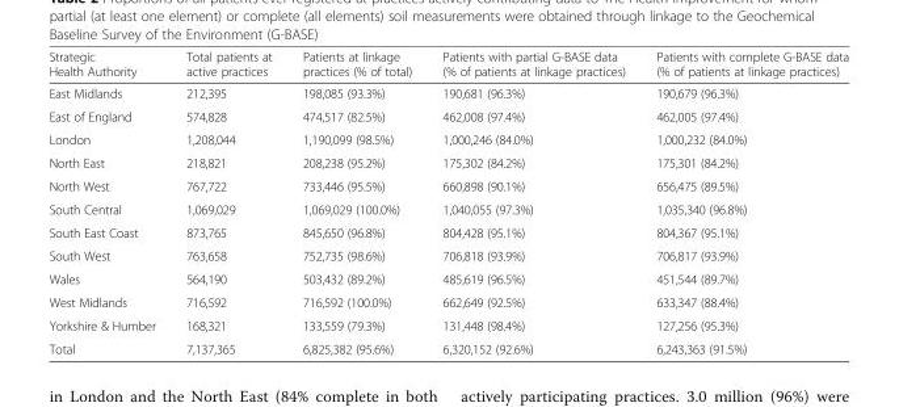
<table><thead><tr><td>Strategic Health Authority</td><td>Total patients at active practices</td><td>Patients at linkage practices (% of total)</td><td>Patients with partial G-BASE data (% of patients at linkage practices)</td><td>Patients with complete G-BASE data (% of patients at linkage practices)</td></tr></thead><tbody><tr><td>East Midlands</td><td>212,395</td><td>198,085 (93.3%)</td><td>190,681 (96.3%)</td><td>190,679 (96.3%)</td></tr><tr><td>East of England</td><td>574,828</td><td>474,517 (82.5%)</td><td>462,008 (97.4%)</td><td>462,005 (97.4%)</td></tr><tr><td>London</td><td>1,208,044</td><td>1,190,099 (98.5%)</td><td>1,000,246 (84.0%)</td><td>1,000,232 (84.0%)</td></tr><tr><td>North East</td><td>218,821</td><td>208,238 (95.2%)</td><td>175,302 (84.2%)</td><td>175,301 (84.2%)</td></tr><tr><td>North West</td><td>767,722</td><td>733,446 (95.5%)</td><td>660,898 (90.1%)</td><td>656,475 (89.5%)</td></tr><tr><td>South Central</td><td>1,069,029</td><td>1,069,029 (100.0%)</td><td>1,040,055 (97.3%)</td><td>1,035,340 (96.8%)</td></tr><tr><td>South East Coast</td><td>873,765</td><td>845,650 (96.8%)</td><td>804,428 (95.1%)</td><td>804,367 (95.1%)</td></tr><tr><td>South West</td><td>763,658</td><td>752,735 (98.6%)</td><td>706,818 (93.9%)</td><td>706,817 (93.9%)</td></tr><tr><td>Wales</td><td>564,190</td><td>503,432 (89.2%)</td><td>485,619 (96.5%)</td><td>451,544 (89.7%)</td></tr><tr><td>West Midlands</td><td>716,592</td><td>716,592 (100.0%)</td><td>662,649 (92.5%)</td><td>633,347 (88.4%)</td></tr><tr><td>Yorkshire &amp; Humber</td><td>168,321</td><td>133,559 (79.3%)</td><td>131,448 (98.4%)</td><td>127,256 (95.3%)</td></tr><tr><td>Total</td><td>7,137,365</td><td>6,825,382 (95.6%)</td><td>6,320,152 (92.6%)</td><td>6,243,363 (91.5%)</td></tr></tbody></table>